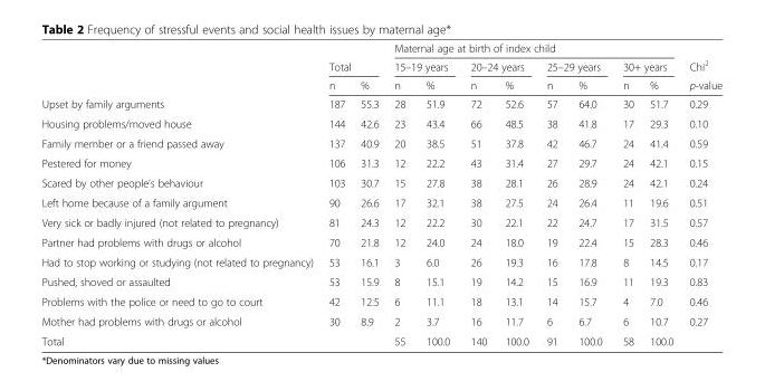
<table><thead><tr><td rowspan="3"></td><td></td><td></td><td colspan="8">Maternal age at birth of index child</td><td rowspan="3">Chi<sup>2</sup> p-value</td></tr><tr><td colspan="2">Total</td><td colspan="2">15–19 years</td><td colspan="2">20–24 years</td><td colspan="2">25–29 years</td><td colspan="2">30+ years</td></tr><tr><td>n</td><td>%</td><td>n</td><td>%</td><td>n</td><td>%</td><td>n</td><td>%</td><td>n</td><td>%</td></tr></thead><tbody><tr><td>Upset by family arguments</td><td>187</td><td>55.3</td><td>28</td><td>51.9</td><td>72</td><td>52.6</td><td>57</td><td>64.0</td><td>30</td><td>51.7</td><td>0.29</td></tr><tr><td>Housing problems/moved house</td><td>144</td><td>42.6</td><td>23</td><td>43.4</td><td>66</td><td>48.5</td><td>38</td><td>41.8</td><td>17</td><td>29.3</td><td>0.10</td></tr><tr><td>Family member or a friend passed away</td><td>137</td><td>40.9</td><td>20</td><td>38.5</td><td>51</td><td>37.8</td><td>42</td><td>46.7</td><td>24</td><td>41.4</td><td>0.59</td></tr><tr><td>Pestered for money</td><td>106</td><td>31.3</td><td>12</td><td>22.2</td><td>43</td><td>31.4</td><td>27</td><td>29.7</td><td>24</td><td>42.1</td><td>0.15</td></tr><tr><td>Scared by other people’s behaviour</td><td>103</td><td>30.7</td><td>15</td><td>27.8</td><td>38</td><td>28.1</td><td>26</td><td>28.9</td><td>24</td><td>42.1</td><td>0.24</td></tr><tr><td>Left home because of a family argument</td><td>90</td><td>26.6</td><td>17</td><td>32.1</td><td>38</td><td>27.5</td><td>24</td><td>26.4</td><td>11</td><td>19.6</td><td>0.51</td></tr><tr><td>Very sick or badly injured (not related to pregnancy)</td><td>81</td><td>24.3</td><td>12</td><td>22.2</td><td>30</td><td>22.1</td><td>22</td><td>24.7</td><td>17</td><td>31.5</td><td>0.57</td></tr><tr><td>Partner had problems with drugs or alcohol</td><td>70</td><td>21.8</td><td>12</td><td>24.0</td><td>24</td><td>18.0</td><td>19</td><td>22.4</td><td>15</td><td>28.3</td><td>0.46</td></tr><tr><td>Had to stop working or studying (not related to pregnancy)</td><td>53</td><td>16.1</td><td>3</td><td>6.0</td><td>26</td><td>19.3</td><td>16</td><td>17.8</td><td>8</td><td>14.5</td><td>0.17</td></tr><tr><td>Pushed, shoved or assaulted</td><td>53</td><td>15.9</td><td>8</td><td>15.1</td><td>19</td><td>14.2</td><td>15</td><td>16.9</td><td>11</td><td>19.3</td><td>0.83</td></tr><tr><td>Problems with the police or need to go to court</td><td>42</td><td>12.5</td><td>6</td><td>11.1</td><td>18</td><td>13.1</td><td>14</td><td>15.7</td><td>4</td><td>7.0</td><td>0.46</td></tr><tr><td>Mother had problems with drugs or alcohol</td><td>30</td><td>8.9</td><td>2</td><td>3.7</td><td>16</td><td>11.7</td><td>6</td><td>6.7</td><td>6</td><td>10.7</td><td>0.27</td></tr><tr><td>Total</td><td></td><td></td><td>55</td><td>100.0</td><td>140</td><td>100.0</td><td>91</td><td>100.0</td><td>58</td><td>100.0</td><td></td></tr></tbody></table>